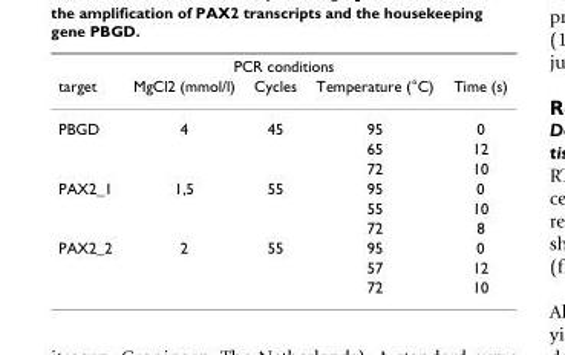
<table><thead><tr><td colspan="5">PCR conditions</td></tr><tr><td>target</td><td>MgCl2 (mmol/l)</td><td>Cycles</td><td>Temperature (°C)</td><td>Time (s)</td></tr></thead><tbody><tr><td rowspan="3">PBGD</td><td>4</td><td>45</td><td>95</td><td>0</td></tr><tr><td></td><td></td><td>65</td><td>12</td></tr><tr><td></td><td></td><td>72</td><td>10</td></tr><tr><td rowspan="3">PAX2_1</td><td>1,5</td><td>55</td><td>95</td><td>0</td></tr><tr><td></td><td></td><td>55</td><td>10</td></tr><tr><td></td><td></td><td>72</td><td>8</td></tr><tr><td rowspan="3">PAX2_2</td><td>2</td><td>55</td><td>95</td><td>0</td></tr><tr><td></td><td></td><td>57</td><td>12</td></tr><tr><td></td><td></td><td>72</td><td>10</td></tr></tbody></table>